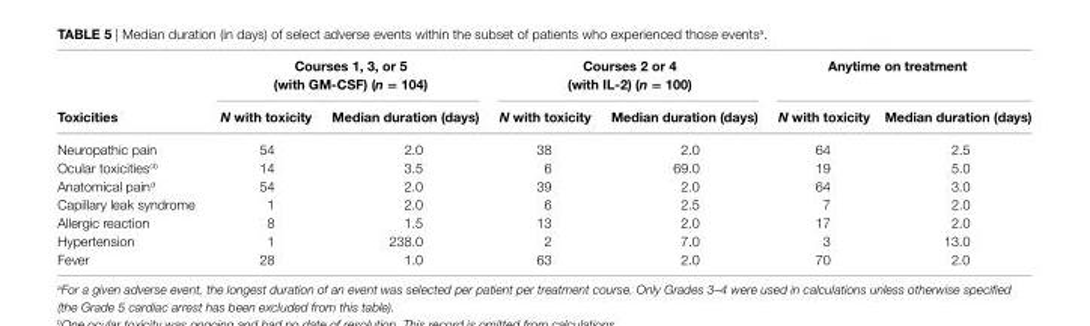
<table><thead><tr><td rowspan="2">Toxicities</td><td colspan="2">Courses 1, 3, or 5 (with GM-CSF) (n = 104)</td><td colspan="2">Courses 2 or 4 (with il-2) (n = 100)</td><td colspan="2">anytime on treatment</td></tr><tr><td>N with toxicity</td><td>Median duration (days)</td><td>N with toxicity</td><td>Median duration (days)</td><td>N with toxicity</td><td>Median duration (days)</td></tr></thead><tbody><tr><td>Neuropathic pain</td><td>54</td><td>2.0</td><td>38</td><td>2.0</td><td>64</td><td>2.5</td></tr><tr><td>Ocular toxicities<sup>cb</sup></td><td>14</td><td>3.5</td><td>6</td><td>69.0</td><td>19</td><td>5.0</td></tr><tr><td>Anatomical pain<sup>d</sup></td><td>54</td><td>2.0</td><td>39</td><td>2.0</td><td>64</td><td>3.0</td></tr><tr><td>Capillary leak syndrome</td><td>1</td><td>2.0</td><td>6</td><td>2.5</td><td>7</td><td>2.0</td></tr><tr><td>Allergic reaction</td><td>8</td><td>1.5</td><td>13</td><td>2.0</td><td>17</td><td>2.0</td></tr><tr><td>Hypertension</td><td>1</td><td>238.0</td><td>2</td><td>7.0</td><td>3</td><td>13.0</td></tr><tr><td>Fever</td><td>28</td><td>1.0</td><td>63</td><td>2.0</td><td>70</td><td>2.0</td></tr></tbody></table>